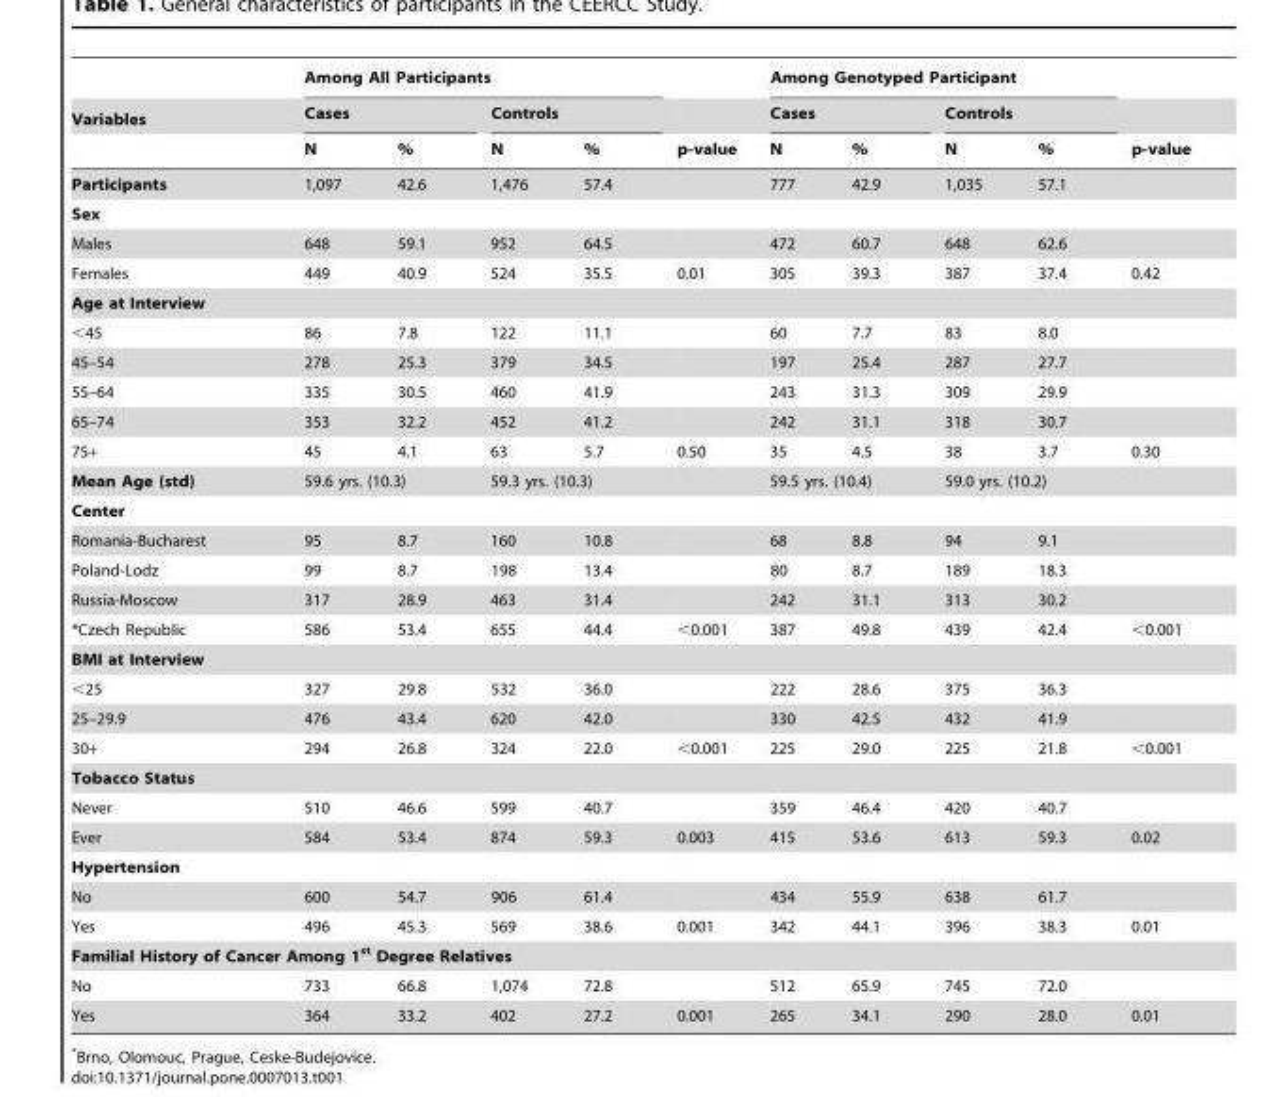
<table><thead><tr><td rowspan="3">Variables</td><td colspan="4">Among All Participants</td><td rowspan="3">p-value</td><td colspan="4">Among Genotyped Participant</td><td rowspan="3">p-value</td></tr><tr><td colspan="2">Cases</td><td colspan="2">Controls</td><td colspan="2">Cases</td><td colspan="2">Controls</td></tr><tr><td>N</td><td>%</td><td>N</td><td>%</td><td>N</td><td>%</td><td>N</td><td>%</td></tr></thead><tbody><tr><td>Participants</td><td>1,097</td><td>42.6</td><td>1,476</td><td>57.4</td><td></td><td>777</td><td>42.9</td><td>1,035</td><td>57.1</td><td></td></tr><tr><td colspan="11">Sex</td></tr><tr><td>Males</td><td>648</td><td>59.1</td><td>952</td><td>64.5</td><td></td><td>472</td><td>60.7</td><td>648</td><td>62.6</td><td></td></tr><tr><td>Females</td><td>449</td><td>40.9</td><td>524</td><td>35.5</td><td>0.01</td><td>305</td><td>39.3</td><td>387</td><td>37.4</td><td>0.42</td></tr><tr><td colspan="11">Age at Interview</td></tr><tr><td>&lt;45</td><td>86</td><td>7.8</td><td>122</td><td>11.1</td><td></td><td>60</td><td>7.7</td><td>83</td><td>8.0</td><td></td></tr><tr><td>45–54</td><td>278</td><td>25.3</td><td>379</td><td>34.5</td><td></td><td>197</td><td>25.4</td><td>287</td><td>27.7</td><td></td></tr><tr><td>55–64</td><td>335</td><td>30.5</td><td>460</td><td>41.9</td><td></td><td>243</td><td>31.3</td><td>309</td><td>29.9</td><td></td></tr><tr><td>65–74</td><td>353</td><td>32.2</td><td>452</td><td>41.2</td><td></td><td>242</td><td>31.1</td><td>318</td><td>30.7</td><td></td></tr><tr><td>75+</td><td>45</td><td>4.1</td><td>63</td><td>5.7</td><td>0.50</td><td>35</td><td>4.5</td><td>38</td><td>3.7</td><td>0.30</td></tr><tr><td>Mean Age (std)</td><td colspan="2">59.6 yrs. (10.3)</td><td colspan="2">59.3 yrs. (10.3)</td><td></td><td colspan="2">59.5 yrs. (10.4)</td><td colspan="2">59.0 yrs. (10.2)</td><td></td></tr><tr><td colspan="11">Center</td></tr><tr><td>Romania-Bucharest</td><td>95</td><td>8.7</td><td>160</td><td>10.8</td><td></td><td>68</td><td>8.8</td><td>94</td><td>9.1</td><td></td></tr><tr><td>Poland-Lodz</td><td>99</td><td>8.7</td><td>198</td><td>13.4</td><td></td><td>80</td><td>8.7</td><td>189</td><td>18.3</td><td></td></tr><tr><td>Russia-Moscow</td><td>317</td><td>28.9</td><td>463</td><td>31.4</td><td></td><td>242</td><td>31.1</td><td>313</td><td>30.2</td><td></td></tr><tr><td>*Czech Republic</td><td>586</td><td>53.4</td><td>655</td><td>44.4</td><td>&lt;0.001</td><td>387</td><td>49.8</td><td>439</td><td>42.4</td><td>&lt;0.001</td></tr><tr><td colspan="11">BMI at Interview</td></tr><tr><td>&lt;25</td><td>327</td><td>29.8</td><td>532</td><td>36.0</td><td></td><td>222</td><td>28.6</td><td>375</td><td>36.3</td><td></td></tr><tr><td>25–29.9</td><td>476</td><td>43.4</td><td>620</td><td>42.0</td><td></td><td>330</td><td>42.5</td><td>432</td><td>41.9</td><td></td></tr><tr><td>30+</td><td>294</td><td>26.8</td><td>324</td><td>22.0</td><td>&lt;0.001</td><td>225</td><td>29.0</td><td>225</td><td>21.8</td><td>&lt;0.001</td></tr><tr><td colspan="11">Tobacco Status</td></tr><tr><td>Never</td><td>510</td><td>46.6</td><td>599</td><td>40.7</td><td></td><td>359</td><td>46.4</td><td>420</td><td>40.7</td><td></td></tr><tr><td>Ever</td><td>584</td><td>53.4</td><td>874</td><td>59.3</td><td>0.003</td><td>415</td><td>53.6</td><td>613</td><td>59.3</td><td>0.02</td></tr><tr><td colspan="11">Hypertension</td></tr><tr><td>No</td><td>600</td><td>54.7</td><td>906</td><td>61.4</td><td></td><td>434</td><td>55.9</td><td>638</td><td>61.7</td><td></td></tr><tr><td>Yes</td><td>496</td><td>45.3</td><td>569</td><td>38.6</td><td>0.001</td><td>342</td><td>44.1</td><td>396</td><td>38.3</td><td>0.01</td></tr><tr><td colspan="11">Familial History of Cancer Among 1<sup>st</sup> Degree Relatives</td></tr><tr><td>No</td><td>733</td><td>66.8</td><td>1,074</td><td>72.8</td><td></td><td>512</td><td>65.9</td><td>745</td><td>72.0</td><td></td></tr><tr><td>Yes</td><td>364</td><td>33.2</td><td>402</td><td>27.2</td><td>0.001</td><td>265</td><td>34.1</td><td>290</td><td>28.0</td><td>0.01</td></tr></tbody></table>